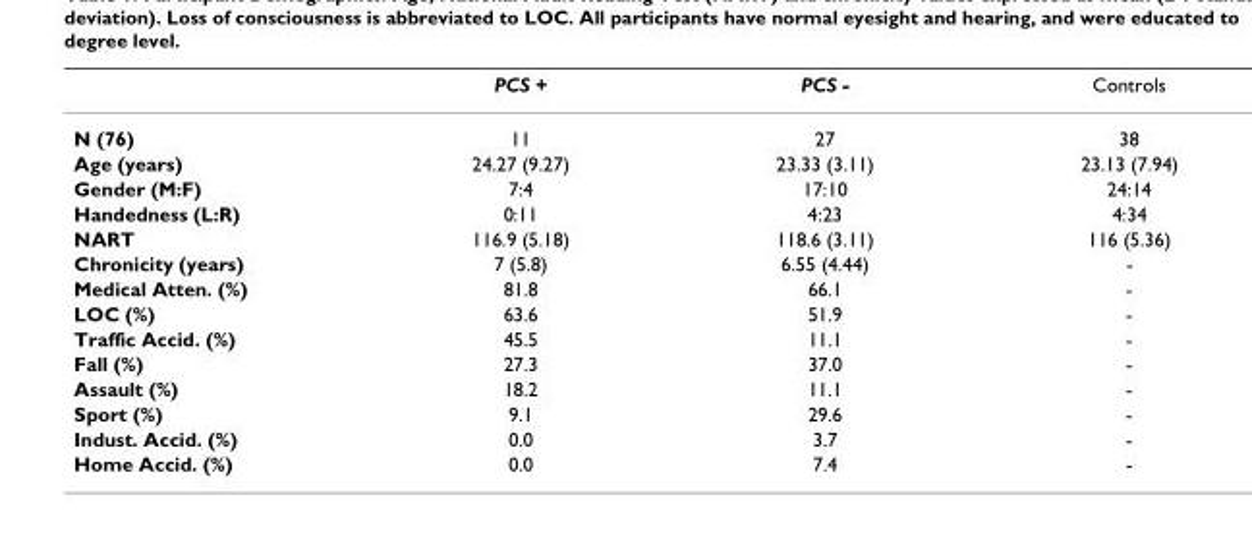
<table><thead><tr><td></td><td>PCS +</td><td>PCS -</td><td>Controls</td></tr></thead><tbody><tr><td>N (76)</td><td>11</td><td>27</td><td>38</td></tr><tr><td>Age (years)</td><td>24.27 (9.27)</td><td>23.33 (3.11)</td><td>23.13 (7.94)</td></tr><tr><td>Gender (M:F)</td><td>7:4</td><td>17:10</td><td>24:14</td></tr><tr><td>Handedness (L:R)</td><td>0:11</td><td>4:23</td><td>4:34</td></tr><tr><td>NART</td><td>116.9 (5.18)</td><td>118.6 (3.11)</td><td>116 (5.36)</td></tr><tr><td>Chronicity (years)</td><td>7 (5.8)</td><td>6.55 (4.44)</td><td>-</td></tr><tr><td>Medical Atten. (%)</td><td>81.8</td><td>66.1</td><td>-</td></tr><tr><td>LOC (%)</td><td>63.6</td><td>51.9</td><td>-</td></tr><tr><td>Traffic Accid. (%)</td><td>45.5</td><td>11.1</td><td>-</td></tr><tr><td>Fall (%)</td><td>27.3</td><td>37.0</td><td>-</td></tr><tr><td>Assault (%)</td><td>18.2</td><td>11.1</td><td>-</td></tr><tr><td>Sport (%)</td><td>9.1</td><td>29.6</td><td>-</td></tr><tr><td>Indust. Accid. (%)</td><td>0.0</td><td>3.7</td><td>-</td></tr><tr><td>Home Accid. (%)</td><td>0.0</td><td>7.4</td><td>-</td></tr></tbody></table>